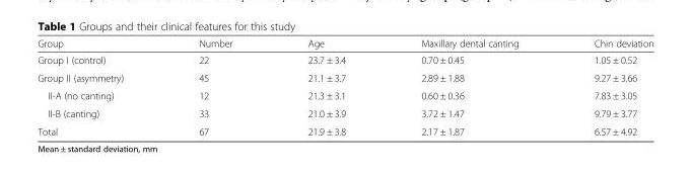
<table><thead><tr><td>Group</td><td>Number</td><td>Age</td><td>Maxillary dental canting</td><td>Chin deviation</td></tr></thead><tbody><tr><td>Group I (control)</td><td>22</td><td>23.7 ± 3.4</td><td>0.70 ± 0.45</td><td>1.05 ± 0.52</td></tr><tr><td>Group II (asymmetry)</td><td>45</td><td>21.1 ± 3.7</td><td>2.89 ± 1.88</td><td>9.27 ± 3.66</td></tr><tr><td>II-A (no canting)</td><td>12</td><td>21.3 ± 3.1</td><td>0.60 ± 0.36</td><td>7.83 ± 3.05</td></tr><tr><td>II-B (canting)</td><td>33</td><td>21.0 ± 3.9</td><td>3.72 ± 1.47</td><td>9.79 ± 3.77</td></tr><tr><td>Total</td><td>67</td><td>21.9 ± 3.8</td><td>2.17 ± 1.87</td><td>6.57 ± 4.92</td></tr></tbody></table>